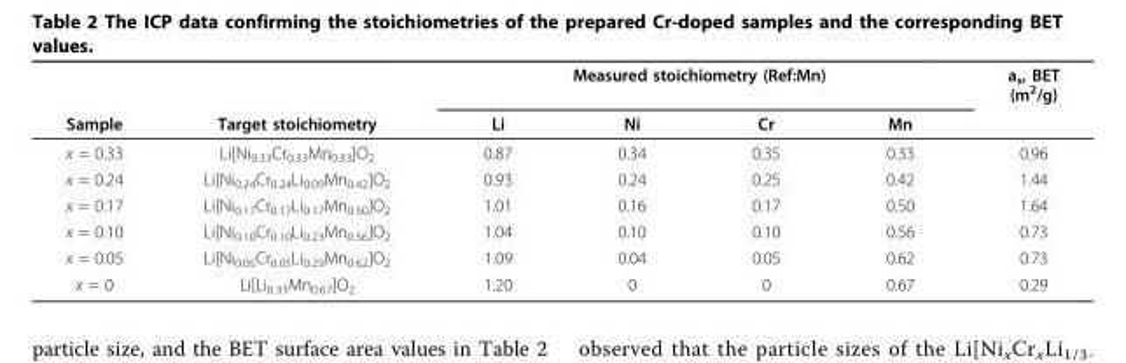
<table><thead><tr><td rowspan="2">Sample</td><td rowspan="2">Target stoichiometry</td><td colspan="4">Measured stoichiometry (Ref:Mn)</td><td rowspan="2">a<sub>s</sub>, BET (m<sup>2</sup>/g)</td></tr><tr><td>Li</td><td>Ni</td><td>Cr</td><td>Mn</td></tr></thead><tbody><tr><td>x = 0.33</td><td>Li[Ni<sub>0.33</sub>Cr<sub>0.33</sub>Mn<sub>0.33</sub>]O<sub>2</sub></td><td>0.87</td><td>0.34</td><td>0.35</td><td>0.33</td><td>0.96</td></tr><tr><td>x = 0.24</td><td>Li[Ni<sub>0.24</sub>Cr<sub>0.24</sub>Li<sub>0.09</sub>Mn<sub>0.42</sub>]O<sub>2</sub></td><td>0.93</td><td>0.24</td><td>0.25</td><td>0.42</td><td>1.44</td></tr><tr><td>x = 0.17</td><td>Li[Ni<sub>0.17</sub>Cr<sub>0.17</sub>Li<sub>0.17</sub>Mn<sub>0.50</sub>]O<sub>2</sub></td><td>1.01</td><td>0.16</td><td>0.17</td><td>0.50</td><td>1.64</td></tr><tr><td>x = 0.10</td><td>Li[Ni<sub>0.10</sub>Cr<sub>0.10</sub>Li<sub>0.23</sub>Mn<sub>0.56</sub>]O<sub>2</sub></td><td>1.04</td><td>0.10</td><td>0.10</td><td>0.56</td><td>0.73</td></tr><tr><td>x = 0.05</td><td>Li[Ni<sub>0.05</sub>Cr<sub>0.05</sub>Li<sub>0.29</sub>Mn<sub>0.62</sub>]O<sub>2</sub></td><td>1.09</td><td>0.04</td><td>0.05</td><td>0.62</td><td>0.73</td></tr><tr><td>x = 0</td><td>Li[Li<sub>0.33</sub>Mn<sub>0.67</sub>]O<sub>2</sub></td><td>1.20</td><td>0</td><td>0</td><td>0.67</td><td>0.29</td></tr></tbody></table>